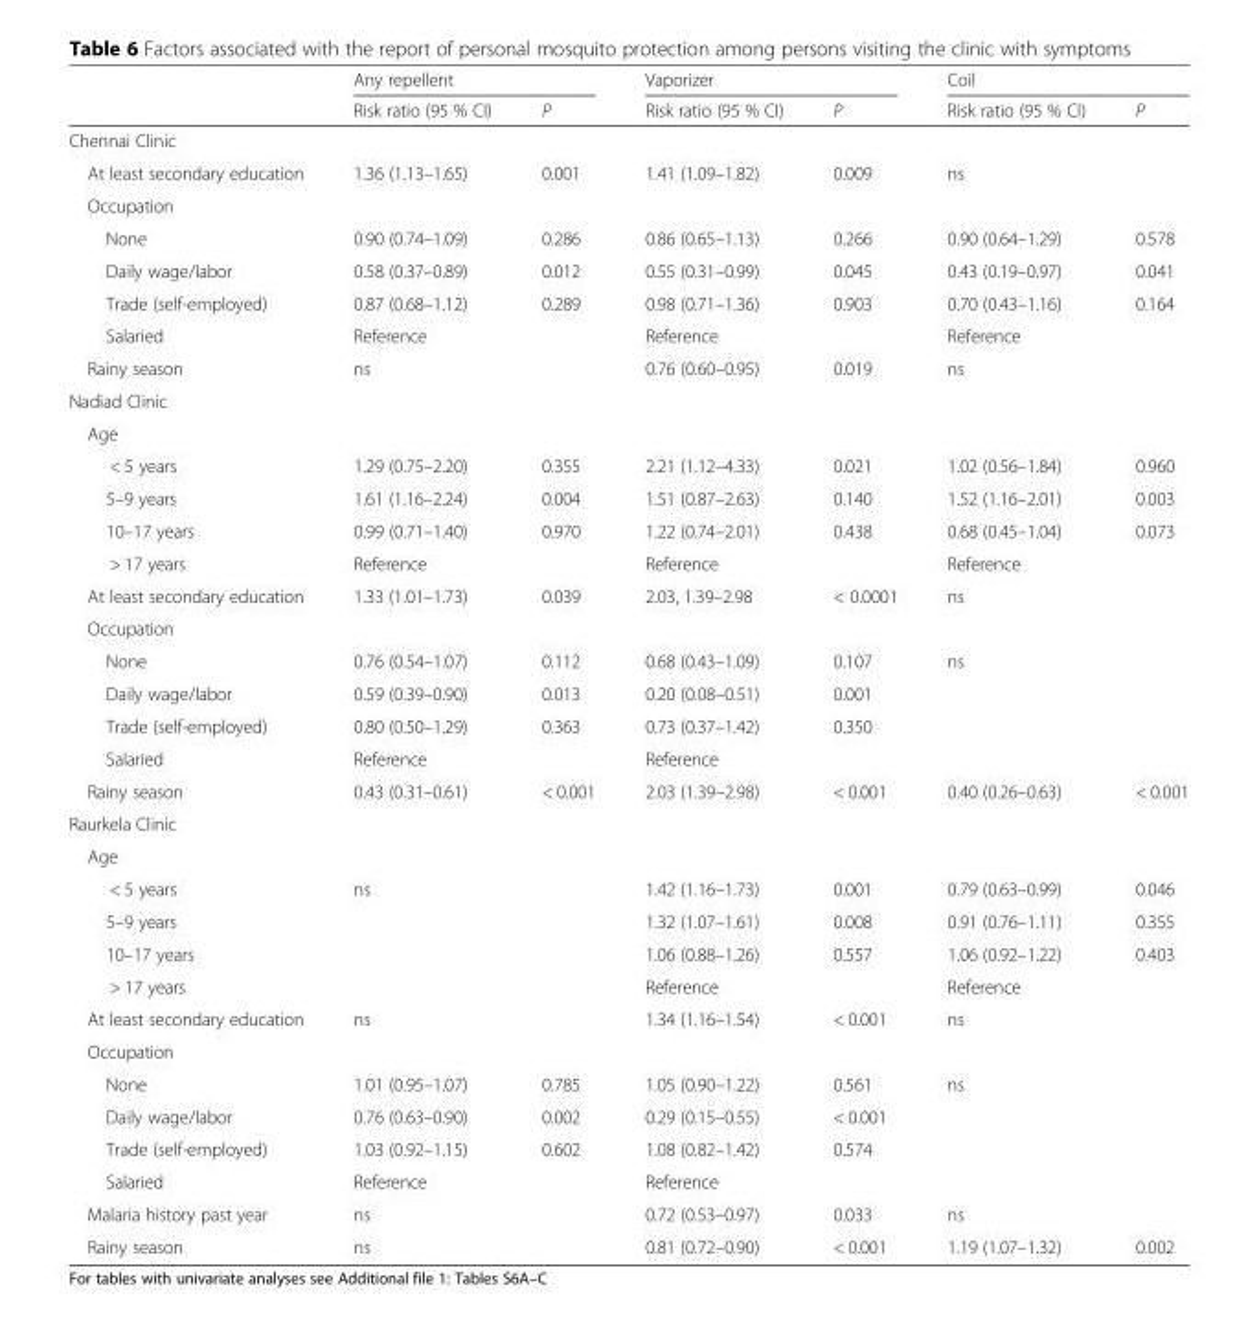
<table><thead><tr><td rowspan="2"></td><td colspan="2">Any repellent</td><td colspan="2">Vaporizer</td><td colspan="2">Coil</td></tr><tr><td>Risk ratio (95 % CI)</td><td>P</td><td>Risk ratio (95 % CI)</td><td>P</td><td>Risk ratio (95 % CI)</td><td>P</td></tr></thead><tbody><tr><td colspan="7">Chennai Clinic</td></tr><tr><td>At least secondary education</td><td>1.36 (1.13–1.65)</td><td>0.001</td><td>1.41 (1.09–1.82)</td><td>0.009</td><td>ns</td><td></td></tr><tr><td colspan="7">Occupation</td></tr><tr><td>None</td><td>0.90 (0.74–1.09)</td><td>0.286</td><td>0.86 (0.65–1.13)</td><td>0.266</td><td>0.90 (0.64–1.29)</td><td>0.578</td></tr><tr><td>Daily wage/labor</td><td>0.58 (0.37–0.89)</td><td>0.012</td><td>0.55 (0.31–0.99)</td><td>0.045</td><td>0.43 (0.19–0.97)</td><td>0.041</td></tr><tr><td>Trade (self-employed)</td><td>0.87 (0.68–1.12)</td><td>0.289</td><td>0.98 (0.71–1.36)</td><td>0.903</td><td>0.70 (0.43–1.16)</td><td>0.164</td></tr><tr><td>Salaried</td><td>Reference</td><td></td><td>Reference</td><td></td><td>Reference</td><td></td></tr><tr><td>Rainy season</td><td>ns</td><td></td><td>0.76 (0.60–0.95)</td><td>0.019</td><td>ns</td><td></td></tr><tr><td colspan="7">Nadiad Clinic</td></tr><tr><td colspan="7">Age</td></tr><tr><td>&lt; 5 years</td><td>1.29 (0.75–2.20)</td><td>0.355</td><td>2.21 (1.12–4.33)</td><td>0.021</td><td>1.02 (0.56–1.84)</td><td>0.960</td></tr><tr><td>5–9 years</td><td>1.61 (1.16–2.24)</td><td>0.004</td><td>1.51 (0.87–2.63)</td><td>0.140</td><td>1.52 (1.16–2.01)</td><td>0.003</td></tr><tr><td>10–17 years</td><td>0.99 (0.71–1.40)</td><td>0.970</td><td>1.22 (0.74–2.01)</td><td>0.438</td><td>0.68 (0.45–1.04)</td><td>0.073</td></tr><tr><td>&gt; 17 years</td><td>Reference</td><td></td><td>Reference</td><td></td><td>Reference</td><td></td></tr><tr><td>At least secondary education</td><td>1.33 (1.01–1.73)</td><td>0.039</td><td>2.03, 1.39–2.98</td><td>&lt; 0.0001</td><td>ns</td><td></td></tr><tr><td colspan="7">Occupation</td></tr><tr><td>None</td><td>0.76 (0.54–1.07)</td><td>0.112</td><td>0.68 (0.43–1.09)</td><td>0.107</td><td>ns</td><td></td></tr><tr><td>Daily wage/labor</td><td>0.59 (0.39–0.90)</td><td>0.013</td><td>0.20 (0.08–0.51)</td><td>0.001</td><td></td><td></td></tr><tr><td>Trade (self-employed)</td><td>0.80 (0.50–1.29)</td><td>0.363</td><td>0.73 (0.37–1.42)</td><td>0.350</td><td></td><td></td></tr><tr><td>Salaried</td><td>Reference</td><td></td><td>Reference</td><td></td><td></td><td></td></tr><tr><td>Rainy season</td><td>0.43 (0.31–0.61)</td><td>&lt; 0.001</td><td>2.03 (1.39–2.98)</td><td>&lt; 0.001</td><td>0.40 (0.26–0.63)</td><td>&lt; 0.001</td></tr><tr><td colspan="7">Raurkela Clinic</td></tr><tr><td colspan="7">Age</td></tr><tr><td>&lt; 5 years</td><td>ns</td><td></td><td>1.42 (1.16–1.73)</td><td>0.001</td><td>0.79 (0.63–0.99)</td><td>0.046</td></tr><tr><td>5–9 years</td><td></td><td></td><td>1.32 (1.07–1.61)</td><td>0.008</td><td>0.91 (0.76–1.11)</td><td>0.355</td></tr><tr><td>10–17 years</td><td></td><td></td><td>1.06 (0.88–1.26)</td><td>0.557</td><td>1.06 (0.92–1.22)</td><td>0.403</td></tr><tr><td>&gt; 17 years</td><td></td><td></td><td>Reference</td><td></td><td>Reference</td><td></td></tr><tr><td>At least secondary education</td><td>ns</td><td></td><td>1.34 (1.16–1.54)</td><td>&lt; 0.001</td><td>ns</td><td></td></tr><tr><td colspan="7">Occupation</td></tr><tr><td>None</td><td>1.01 (0.95–1.07)</td><td>0.785</td><td>1.05 (0.90–1.22)</td><td>0.561</td><td>ns</td><td></td></tr><tr><td>Daily wage/labor</td><td>0.76 (0.63–0.90)</td><td>0.002</td><td>0.29 (0.15–0.55)</td><td>&lt; 0.001</td><td></td><td></td></tr><tr><td>Trade (self-employed)</td><td>1.03 (0.92–1.15)</td><td>0.602</td><td>1.08 (0.82–1.42)</td><td>0.574</td><td></td><td></td></tr><tr><td>Salaried</td><td>Reference</td><td></td><td>Reference</td><td></td><td></td><td></td></tr><tr><td>Malaria history past year</td><td>ns</td><td></td><td>0.72 (0.53–0.97)</td><td>0.033</td><td>ns</td><td></td></tr><tr><td>Rainy season</td><td>ns</td><td></td><td>0.81 (0.72–0.90)</td><td>&lt; 0.001</td><td>1.19 (1.07–1.32)</td><td>0.002</td></tr></tbody></table>